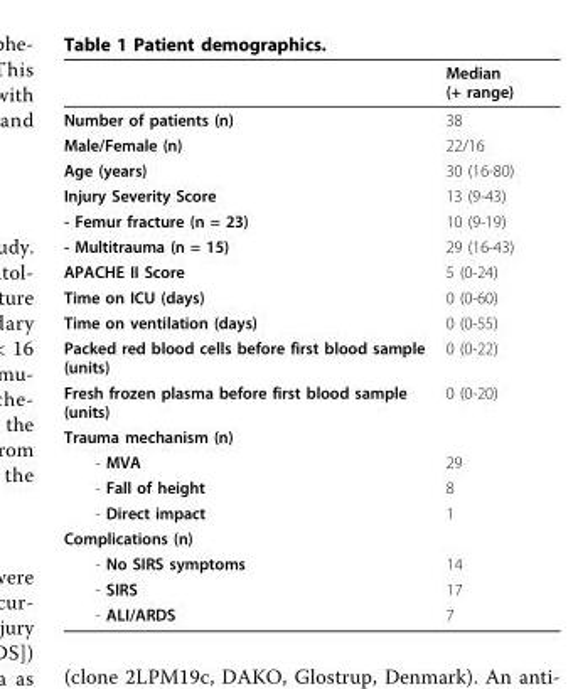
<table><thead><tr><td></td><td>Median (+ range)</td></tr></thead><tbody><tr><td>Number of patients (n)</td><td>38</td></tr><tr><td>Male/Female (n)</td><td>22/16</td></tr><tr><td>Age (years)</td><td>30 (16-80)</td></tr><tr><td>Injury Severity Score</td><td>13 (9-43)</td></tr><tr><td>- Femur fracture (n = 23)</td><td>10 (9-19)</td></tr><tr><td>- Multitrauma (n = 15)</td><td>29 (16-43)</td></tr><tr><td>APACHE II Score</td><td>5 (0-24)</td></tr><tr><td>Time on ICU (days)</td><td>0 (0-60)</td></tr><tr><td>Time on ventilation (days)</td><td>0 (0-55)</td></tr><tr><td>Packed red blood cells before first blood sample (units)</td><td>0 (0-22)</td></tr><tr><td>Fresh frozen plasma before first blood sample (units)</td><td>0 (0-20)</td></tr><tr><td colspan="2">Trauma mechanism (n)</td></tr><tr><td>- MVA</td><td>29</td></tr><tr><td>- Fall of height</td><td>8</td></tr><tr><td>- Direct impact</td><td>1</td></tr><tr><td colspan="2">Complications (n)</td></tr><tr><td>- No SIRS symptoms</td><td>14</td></tr><tr><td>- SIRS</td><td>17</td></tr><tr><td>- ALI/ARDS</td><td>7</td></tr></tbody></table>